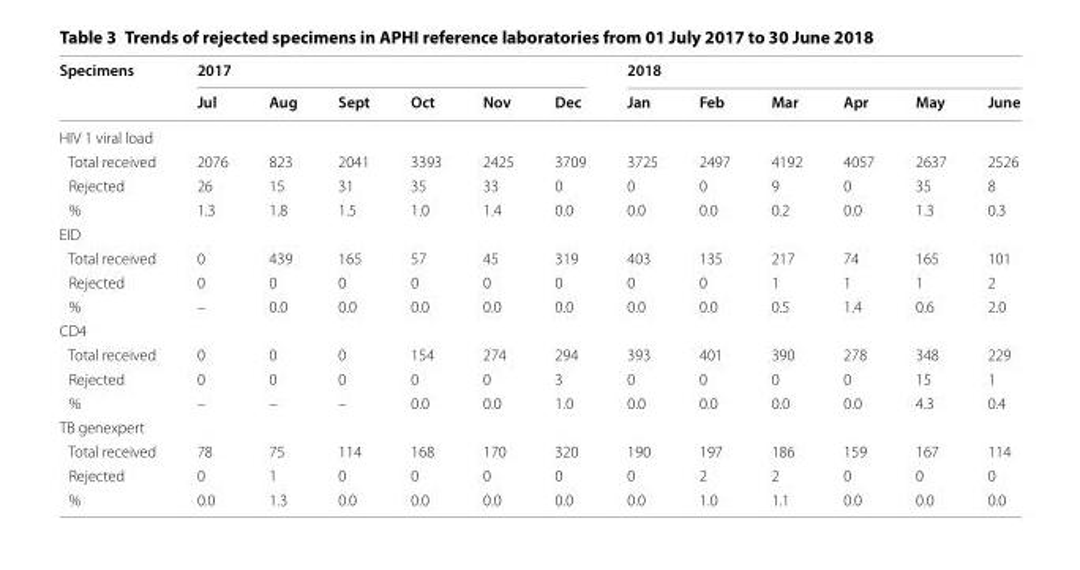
<table><thead><tr><td rowspan="2">Specimens</td><td colspan="6">2017</td><td colspan="6">2018</td></tr><tr><td>Jul</td><td>Aug</td><td>Sept</td><td>Oct</td><td>Nov</td><td>Dec</td><td>Jan</td><td>Feb</td><td>Mar</td><td>Apr</td><td>May</td><td>June</td></tr></thead><tbody><tr><td colspan="13">HIV 1 viral load</td></tr><tr><td>Total received</td><td>2076</td><td>823</td><td>2041</td><td>3393</td><td>2425</td><td>3709</td><td>3725</td><td>2497</td><td>4192</td><td>4057</td><td>2637</td><td>2526</td></tr><tr><td>Rejected</td><td>26</td><td>15</td><td>31</td><td>35</td><td>33</td><td>0</td><td>0</td><td>0</td><td>9</td><td>0</td><td>35</td><td>8</td></tr><tr><td>%</td><td>1.3</td><td>1.8</td><td>1.5</td><td>1.0</td><td>1.4</td><td>0.0</td><td>0.0</td><td>0.0</td><td>0.2</td><td>0.0</td><td>1.3</td><td>0.3</td></tr><tr><td colspan="13">EID</td></tr><tr><td>Total received</td><td>0</td><td>439</td><td>165</td><td>57</td><td>45</td><td>319</td><td>403</td><td>135</td><td>217</td><td>74</td><td>165</td><td>101</td></tr><tr><td>Rejected</td><td>0</td><td>0</td><td>0</td><td>0</td><td>0</td><td>0</td><td>0</td><td>0</td><td>1</td><td>1</td><td>1</td><td>2</td></tr><tr><td>%</td><td>–</td><td>0.0</td><td>0.0</td><td>0.0</td><td>0.0</td><td>0.0</td><td>0.0</td><td>0.0</td><td>0.5</td><td>1.4</td><td>0.6</td><td>2.0</td></tr><tr><td colspan="13">CD4</td></tr><tr><td>Total received</td><td>0</td><td>0</td><td>0</td><td>154</td><td>274</td><td>294</td><td>393</td><td>401</td><td>390</td><td>278</td><td>348</td><td>229</td></tr><tr><td>Rejected</td><td>0</td><td>0</td><td>0</td><td>0</td><td>0</td><td>3</td><td>0</td><td>0</td><td>0</td><td>0</td><td>15</td><td>1</td></tr><tr><td>%</td><td>–</td><td>–</td><td>–</td><td>0.0</td><td>0.0</td><td>1.0</td><td>0.0</td><td>0.0</td><td>0.0</td><td>0.0</td><td>4.3</td><td>0.4</td></tr><tr><td colspan="13">TB genexpert</td></tr><tr><td>Total received</td><td>78</td><td>75</td><td>114</td><td>168</td><td>170</td><td>320</td><td>190</td><td>197</td><td>186</td><td>159</td><td>167</td><td>114</td></tr><tr><td>Rejected</td><td>0</td><td>1</td><td>0</td><td>0</td><td>0</td><td>0</td><td>0</td><td>2</td><td>2</td><td>0</td><td>0</td><td>0</td></tr><tr><td>%</td><td>0.0</td><td>1.3</td><td>0.0</td><td>0.0</td><td>0.0</td><td>0.0</td><td>0.0</td><td>1.0</td><td>1.1</td><td>0.0</td><td>0.0</td><td>0.0</td></tr></tbody></table>